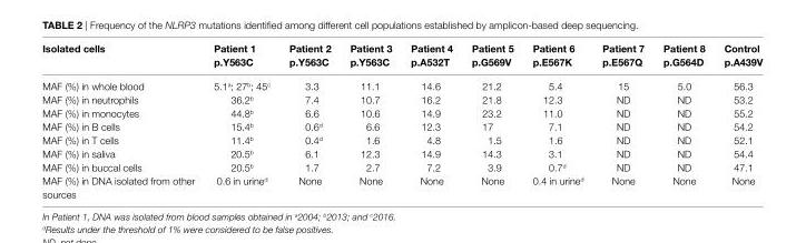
<table><thead><tr><td>isolated cells</td><td>Patient 1 p.Y563c</td><td>Patient 2 p.Y563c</td><td>Patient 3 p.Y563c</td><td>Patient 4 p.a532T</td><td>Patient 5 p.g569V</td><td>Patient 6 p.e567K</td><td>Patient 7 p.e567Q</td><td>Patient 8 p.g564D</td><td>control p.a439V</td></tr></thead><tbody><tr><td>MAF (%) in whole blood</td><td>5.1<sup>a</sup>; 27<sup>b</sup>; 45<sup>c</sup></td><td>3.3</td><td>11.1</td><td>14.6</td><td>21.2</td><td>5.4</td><td>15</td><td>5.0</td><td>56.3</td></tr><tr><td>MAF (%) in neutrophils</td><td>36.2<sup>b</sup></td><td>7.4</td><td>10.7</td><td>16.2</td><td>21.8</td><td>12.3</td><td>ND</td><td>ND</td><td>53.2</td></tr><tr><td>MAF (%) in monocytes</td><td>44.8<sup>b</sup></td><td>6.6</td><td>10.6</td><td>14.9</td><td>23.2</td><td>11.0</td><td>ND</td><td>ND</td><td>55.2</td></tr><tr><td>MAF (%) in B cells</td><td>15.4<sup>b</sup></td><td>0.6<sup>d</sup></td><td>6.6</td><td>12.3</td><td>17</td><td>7.1</td><td>ND</td><td>ND</td><td>54.2</td></tr><tr><td>MAF (%) in T cells</td><td>11.4<sup>b</sup></td><td>0.4<sup>d</sup></td><td>1.6</td><td>4.8</td><td>1.5</td><td>1.6</td><td>ND</td><td>ND</td><td>52.1</td></tr><tr><td>MAF (%) in saliva</td><td>20.5<sup>b</sup></td><td>6.1</td><td>12.3</td><td>14.9</td><td>14.3</td><td>3.1</td><td>ND</td><td>ND</td><td>54.4</td></tr><tr><td>MAF (%) in buccal cells</td><td>20.5<sup>b</sup></td><td>1.7</td><td>2.7</td><td>7.2</td><td>3.9</td><td>0.7<sup>d</sup></td><td>ND</td><td>ND</td><td>47.1</td></tr><tr><td>MAF (%) in DNA isolated from other sources</td><td>0.6 in urine<sup>d</sup></td><td>None</td><td>None</td><td>None</td><td>None</td><td>0.4 in urine<sup>d</sup></td><td>None</td><td>None</td><td>None</td></tr></tbody></table>